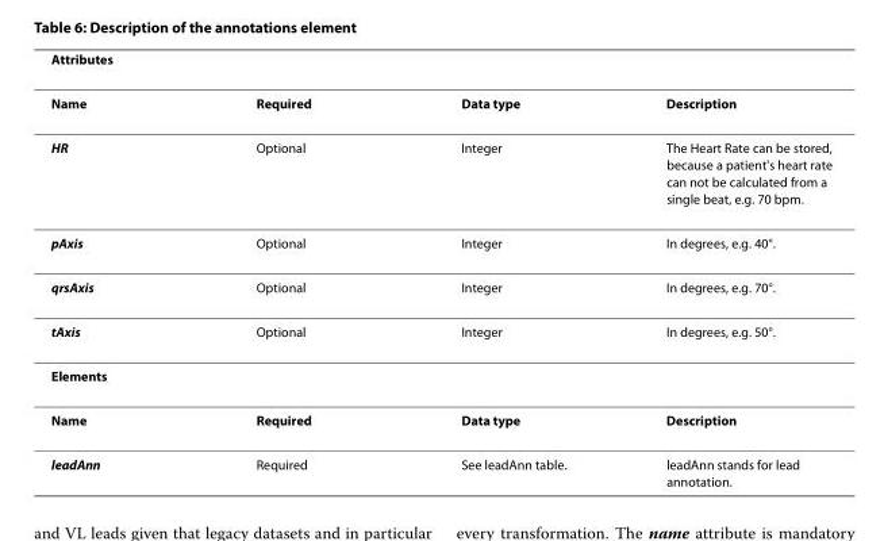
<table><thead><tr><td>Attributes</td><td></td><td></td><td></td></tr></thead><tbody><tr><td>Name</td><td>Required</td><td>Data type</td><td>Description</td></tr><tr><td>HR</td><td>Optional</td><td>Integer</td><td>The Heart Rate can be stored, because a patient&#x27;s heart rate can not be calculated from a single beat, e.g. 70 bpm.</td></tr><tr><td>pAxis</td><td>Optional</td><td>Integer</td><td>In degrees, e.g. 40°.</td></tr><tr><td>qrsAxis</td><td>Optional</td><td>Integer</td><td>In degrees, e.g. 70°.</td></tr><tr><td>tAxis</td><td>Optional</td><td>Integer</td><td>In degrees, e.g. 50°.</td></tr><tr><td colspan="4">Elements</td></tr><tr><td>Name</td><td>Required</td><td>Data type</td><td>Description</td></tr><tr><td>leadAnn</td><td>Required</td><td>See leadAnn table.</td><td>leadAnn stands for lead annotation.</td></tr></tbody></table>